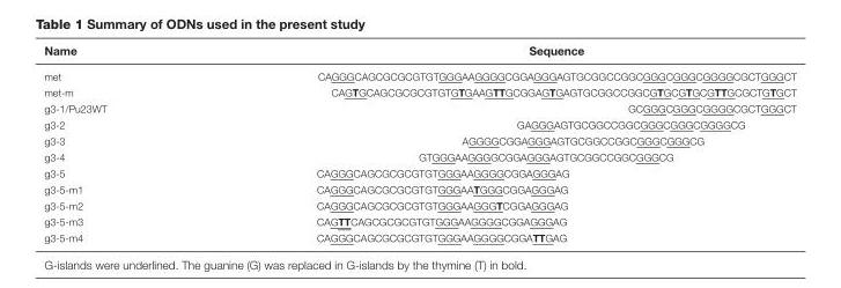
<table><thead><tr><td>Name</td><td>Sequence</td></tr></thead><tbody><tr><td>met</td><td>CAGGGCAGCGCGCGTGTGGGAAGGGGCGGAGGGAGTGCGGCCGGCGGGCGGGCGGGGCGCTGGGCT</td></tr><tr><td>met-m</td><td>CAGTGCAGCGCGCGTGTGTGAAGTTGCGGAGTGAGTGCGGCCGGCGTGCGTGCGTTGCGCTGTGCT</td></tr><tr><td>g3-1/Pu23WT</td><td>GCGGGCGGGCGGGGCGCTGGGCT</td></tr><tr><td>g3-2</td><td>GAGGGAGTGCGGCCGGCGGGCGGGCGGGGCG</td></tr><tr><td>g3-3</td><td>AGGGGCGGAGGGAGTGCGGCCGGCGGGCGGGCG</td></tr><tr><td>g3-4</td><td>GTGGGAAGGGGCGGAGGGAGTGCGGCCGGCGGGCG</td></tr><tr><td>g3-5</td><td>CAGGGCAGCGCGCGTGTGGGAAGGGGCGGAGGGAG</td></tr><tr><td>g3-5-m1</td><td>CAGGGCAGCGCGCGTGTGGGAATGGGCGGAGGGAG</td></tr><tr><td>g3-5-m2</td><td>CAGGGCAGCGCGCGTGTGGGAAGGGTCGGAGGGAG</td></tr><tr><td>g3-5-m3</td><td>CAGTTCAGCGCGCGTGTGGGAAGGGGCGGAGGGAG</td></tr><tr><td>g3-5-m4</td><td>CAGGGCAGCGCGCGTGTGGGAAGGGGCGGATTGAG</td></tr></tbody></table>